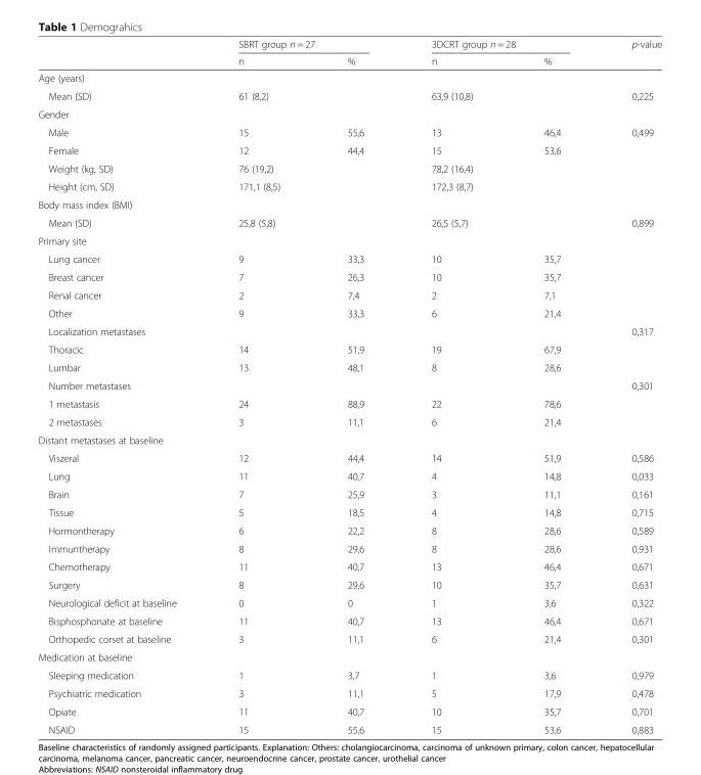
<table><thead><tr><td rowspan="2"></td><td colspan="2">SBRT group n = 27</td><td colspan="2">3DCRT group n = 28</td><td rowspan="2">p-value</td></tr><tr><td>n</td><td>%</td><td>n</td><td>%</td></tr></thead><tbody><tr><td colspan="6">Age (years)</td></tr><tr><td>Mean (SD)</td><td>61 (8,2)</td><td></td><td>63,9 (10,8)</td><td></td><td>0,225</td></tr><tr><td colspan="6">Gender</td></tr><tr><td>Male</td><td>15</td><td>55,6</td><td>13</td><td>46,4</td><td>0,499</td></tr><tr><td>Female</td><td>12</td><td>44,4</td><td>15</td><td>53,6</td><td></td></tr><tr><td>Weight (kg, SD)</td><td>76 (19,2)</td><td></td><td>78,2 (16,4)</td><td></td><td></td></tr><tr><td>Height (cm, SD)</td><td>171,1 (8,5)</td><td></td><td>172,3 (8,7)</td><td></td><td></td></tr><tr><td colspan="6">Body mass index (BMI)</td></tr><tr><td>Mean (SD)</td><td>25,8 (5,8)</td><td></td><td>26,5 (5,7)</td><td></td><td>0,899</td></tr><tr><td colspan="6">Primary site</td></tr><tr><td>Lung cancer</td><td>9</td><td>33,3</td><td>10</td><td>35,7</td><td></td></tr><tr><td>Breast cancer</td><td>7</td><td>26,3</td><td>10</td><td>35,7</td><td></td></tr><tr><td>Renal cancer</td><td>2</td><td>7,4</td><td>2</td><td>7,1</td><td></td></tr><tr><td>Other</td><td>9</td><td>33,3</td><td>6</td><td>21,4</td><td></td></tr><tr><td>Localization metastases</td><td></td><td></td><td></td><td></td><td>0,317</td></tr><tr><td>Thoracic</td><td>14</td><td>51,9</td><td>19</td><td>67,9</td><td></td></tr><tr><td>Lumbar</td><td>13</td><td>48,1</td><td>8</td><td>28,6</td><td></td></tr><tr><td>Number metastases</td><td></td><td></td><td></td><td></td><td>0,301</td></tr><tr><td>1 metastasis</td><td>24</td><td>88,9</td><td>22</td><td>78,6</td><td></td></tr><tr><td>2 metastases</td><td>3</td><td>11,1</td><td>6</td><td>21,4</td><td></td></tr><tr><td colspan="6">Distant metastases at baseline</td></tr><tr><td>Viszeral</td><td>12</td><td>44,4</td><td>14</td><td>51,9</td><td>0,586</td></tr><tr><td>Lung</td><td>11</td><td>40,7</td><td>4</td><td>14,8</td><td>0,033</td></tr><tr><td>Brain</td><td>7</td><td>25,9</td><td>3</td><td>11,1</td><td>0,161</td></tr><tr><td>Tissue</td><td>5</td><td>18,5</td><td>4</td><td>14,8</td><td>0,715</td></tr><tr><td>Hormontherapy</td><td>6</td><td>22,2</td><td>8</td><td>28,6</td><td>0,589</td></tr><tr><td>Immuntherapy</td><td>8</td><td>29,6</td><td>8</td><td>28,6</td><td>0,931</td></tr><tr><td>Chemotherapy</td><td>11</td><td>40,7</td><td>13</td><td>46,4</td><td>0,671</td></tr><tr><td>Surgery</td><td>8</td><td>29,6</td><td>10</td><td>35,7</td><td>0,631</td></tr><tr><td>Neurological deficit at baseline</td><td>0</td><td>0</td><td>1</td><td>3,6</td><td>0,322</td></tr><tr><td>Bisphosphonate at baseline</td><td>11</td><td>40,7</td><td>13</td><td>46,4</td><td>0,671</td></tr><tr><td>Orthopedic corset at baseline</td><td>3</td><td>11,1</td><td>6</td><td>21,4</td><td>0,301</td></tr><tr><td colspan="6">Medication at baseline</td></tr><tr><td>Sleeping medication</td><td>1</td><td>3,7</td><td>1</td><td>3,6</td><td>0,979</td></tr><tr><td>Psychiatric medication</td><td>3</td><td>11,1</td><td>5</td><td>17,9</td><td>0,478</td></tr><tr><td>Opiate</td><td>11</td><td>40,7</td><td>10</td><td>35,7</td><td>0,701</td></tr><tr><td>NSAID</td><td>15</td><td>55,6</td><td>15</td><td>53,6</td><td>0,883</td></tr></tbody></table>